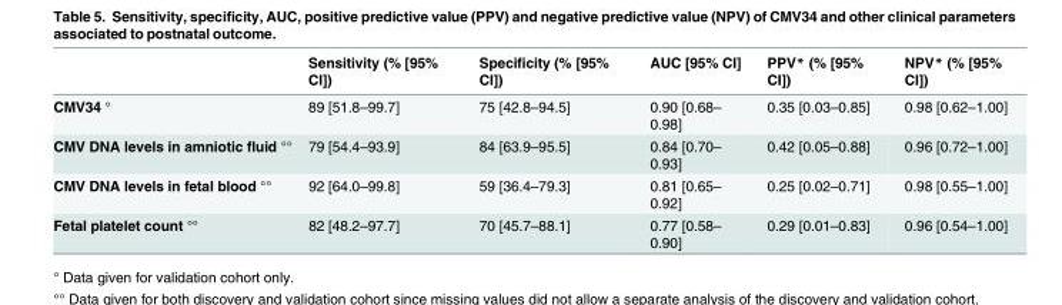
<table><thead><tr><td></td><td>Sensitivity (% [95% CI])</td><td>Specificity (% [95% CI])</td><td>AUC [95% CI]</td><td>PPV* (% [95% CI])</td><td>NPV* (% [95% CI])</td></tr></thead><tbody><tr><td>CMV34 °</td><td>89 [51.8–99.7]</td><td>75 [42.8–94.5]</td><td>0.90 [0.68– 0.98]</td><td>0.35 [0.03–0.85]</td><td>0.98 [0.62–1.00]</td></tr><tr><td>CMV DNA levels in amniotic fluid °°</td><td>79 [54.4–93.9]</td><td>84 [63.9–95.5]</td><td>0.84 [0.70– 0.93]</td><td>0.42 [0.05–0.88]</td><td>0.96 [0.72–1.00]</td></tr><tr><td>CMV DNA levels in fetal blood °°</td><td>92 [64.0–99.8]</td><td>59 [36.4–79.3]</td><td>0.81 [0.65– 0.92]</td><td>0.25 [0.02–0.71]</td><td>0.98 [0.55–1.00]</td></tr><tr><td>Fetal platelet count °°</td><td>82 [48.2–97.7]</td><td>70 [45.7–88.1]</td><td>0.77 [0.58– 0.90]</td><td>0.29 [0.01–0.83]</td><td>0.96 [0.54–1.00]</td></tr></tbody></table>